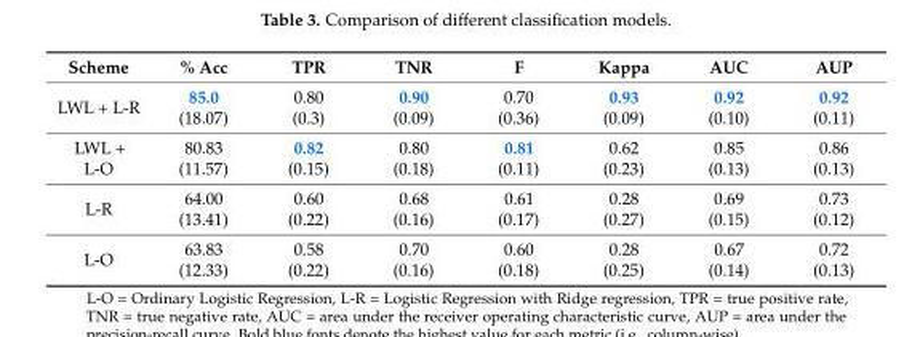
<table><thead><tr><td>Scheme</td><td>% Acc</td><td>TPR</td><td>TNR</td><td>F</td><td>Kappa</td><td>AUC</td><td>AUP</td></tr></thead><tbody><tr><td>LWL + L-R</td><td>85.0 (18.07)</td><td>0.80 (0.3)</td><td>0.90 (0.09)</td><td>0.70 (0.36)</td><td>0.93 (0.09)</td><td>0.92 (0.10)</td><td>0.92 (0.11)</td></tr><tr><td>LWL + L-O</td><td>80.83 (11.57)</td><td>0.82 (0.15)</td><td>0.80 (0.18)</td><td>0.81 (0.11)</td><td>0.62 (0.23)</td><td>0.85 (0.13)</td><td>0.86 (0.13)</td></tr><tr><td>L-R</td><td>64.00 (13.41)</td><td>0.60 (0.22)</td><td>0.68 (0.16)</td><td>0.61 (0.17)</td><td>0.28 (0.27)</td><td>0.69 (0.15)</td><td>0.73 (0.12)</td></tr><tr><td>L-O</td><td>63.83 (12.33)</td><td>0.58 (0.22)</td><td>0.70 (0.16)</td><td>0.60 (0.18)</td><td>0.28 (0.25)</td><td>0.67 (0.14)</td><td>0.72 (0.13)</td></tr></tbody></table>